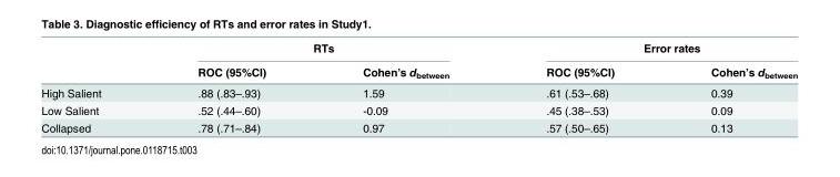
<table><thead><tr><td rowspan="2"></td><td colspan="2">RTs</td><td colspan="2">Error rates</td></tr><tr><td>ROC (95%CI)</td><td>Cohen’s d<sub>between</sub></td><td>ROC (95%CI)</td><td>Cohen’s d<sub>between</sub></td></tr></thead><tbody><tr><td>High Salient</td><td>.88 (.83–.93)</td><td>1.59</td><td>.61 (.53–.68)</td><td>0.39</td></tr><tr><td>Low Salient</td><td>.52 (.44–.60)</td><td>-0.09</td><td>.45 (.38–.53)</td><td>0.09</td></tr><tr><td>Collapsed</td><td>.78 (.71–.84)</td><td>0.97</td><td>.57 (.50–.65)</td><td>0.13</td></tr></tbody></table>